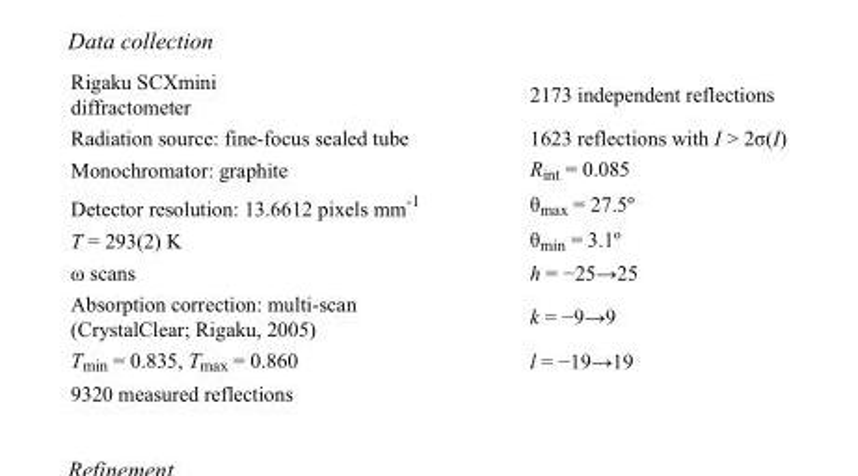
<table><tbody><tr><td>Rigaku SCXmini diffractometer</td><td>2173 independent reflections</td></tr><tr><td>Radiation source: fine-focus sealed tube</td><td>1623 reflections with I &gt; 2σ(I)</td></tr><tr><td>Monochromator: graphite</td><td>R<sub>int</sub> = 0.085</td></tr><tr><td>Detector resolution: 13.6612 pixels mm<sup>-1</sup></td><td>θ<sub>max</sub> = 27.5º</td></tr><tr><td>T = 293(2) K</td><td>θ<sub>min</sub> = 3.1º</td></tr><tr><td>ω scans</td><td>h = −25→25</td></tr><tr><td>Absorption correction: multi-scan (CrystalClear; Rigaku, 2005)</td><td>k = −9→9</td></tr><tr><td>T<sub>min</sub> = 0.835, T<sub>max</sub> = 0.860</td><td>l = −19→19</td></tr><tr><td>9320 measured reflections</td><td></td></tr></tbody></table>